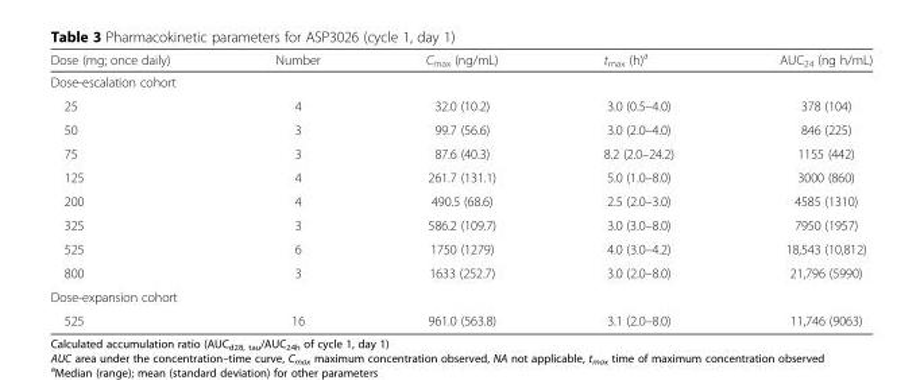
<table><thead><tr><td>Dose (mg; once daily)</td><td>Number</td><td>C<sub>max</sub> (ng/mL)</td><td>t<sub>max</sub> (h)<sup>a</sup></td><td>AUC<sub>24</sub> (ng h/mL)</td></tr></thead><tbody><tr><td colspan="5">Dose-escalation cohort</td></tr><tr><td>25</td><td>4</td><td>32.0 (10.2)</td><td>3.0 (0.5–4.0)</td><td>378 (104)</td></tr><tr><td>50</td><td>3</td><td>99.7 (56.6)</td><td>3.0 (2.0–4.0)</td><td>846 (225)</td></tr><tr><td>75</td><td>3</td><td>87.6 (40.3)</td><td>8.2 (2.0–24.2)</td><td>1155 (442)</td></tr><tr><td>125</td><td>4</td><td>261.7 (131.1)</td><td>5.0 (1.0–8.0)</td><td>3000 (860)</td></tr><tr><td>200</td><td>4</td><td>490.5 (68.6)</td><td>2.5 (2.0–3.0)</td><td>4585 (1310)</td></tr><tr><td>325</td><td>3</td><td>586.2 (109.7)</td><td>3.0 (3.0–8.0)</td><td>7950 (1957)</td></tr><tr><td>525</td><td>6</td><td>1750 (1279)</td><td>4.0 (3.0–4.2)</td><td>18,543 (10,812)</td></tr><tr><td>800</td><td>3</td><td>1633 (252.7)</td><td>3.0 (2.0–8.0)</td><td>21,796 (5990)</td></tr><tr><td colspan="5">Dose-expansion cohort</td></tr><tr><td>525</td><td>16</td><td>961.0 (563.8)</td><td>3.1 (2.0–8.0)</td><td>11,746 (9063)</td></tr></tbody></table>